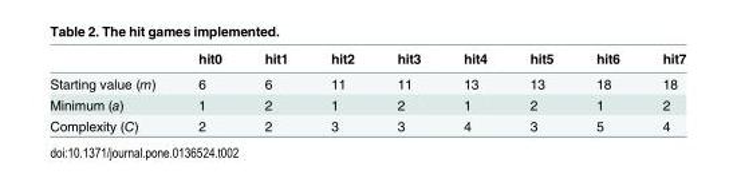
<table><thead><tr><td></td><td>hit0</td><td>hit1</td><td>hit2</td><td>hit3</td><td>hit4</td><td>hit5</td><td>hit6</td><td>hit7</td></tr></thead><tbody><tr><td>Starting value (m)</td><td>6</td><td>6</td><td>11</td><td>11</td><td>13</td><td>13</td><td>18</td><td>18</td></tr><tr><td>Minimum (a)</td><td>1</td><td>2</td><td>1</td><td>2</td><td>1</td><td>2</td><td>1</td><td>2</td></tr><tr><td>Complexity (C)</td><td>2</td><td>2</td><td>3</td><td>3</td><td>4</td><td>3</td><td>5</td><td>4</td></tr></tbody></table>